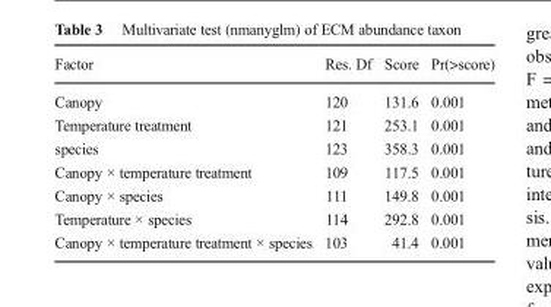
<table><thead><tr><td>Factor</td><td>Res. Df</td><td>Score</td><td>Pr(&gt;score)</td></tr></thead><tbody><tr><td>Canopy</td><td>120</td><td>131.6</td><td>0.001</td></tr><tr><td>Temperature treatment</td><td>121</td><td>253.1</td><td>0.001</td></tr><tr><td>species</td><td>123</td><td>358.3</td><td>0.001</td></tr><tr><td>Canopy × temperature treatment</td><td>109</td><td>117.5</td><td>0.001</td></tr><tr><td>Canopy × species</td><td>111</td><td>149.8</td><td>0.001</td></tr><tr><td>Temperature × species</td><td>114</td><td>292.8</td><td>0.001</td></tr><tr><td>Canopy × temperature treatment × species</td><td>103</td><td>41.4</td><td>0.001</td></tr></tbody></table>